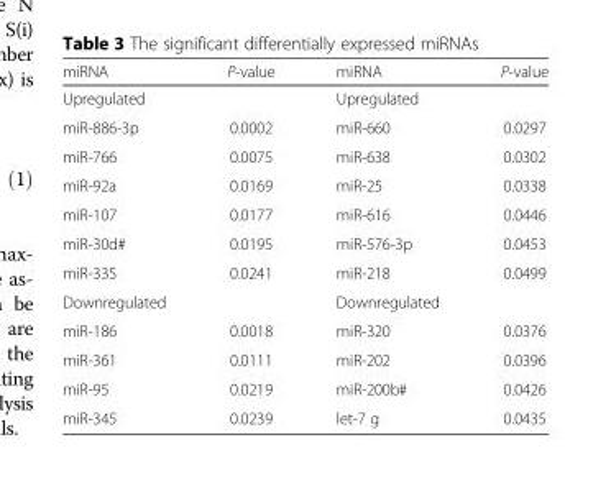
<table><thead><tr><td>miRNA</td><td>P-value</td><td>miRNA</td><td>P-value</td></tr></thead><tbody><tr><td>Upregulated</td><td></td><td>Upregulated</td><td></td></tr><tr><td>miR-886-3p</td><td>0.0002</td><td>miR-660</td><td>0.0297</td></tr><tr><td>miR-766</td><td>0.0075</td><td>miR-638</td><td>0.0302</td></tr><tr><td>miR-92a</td><td>0.0169</td><td>miR-25</td><td>0.0338</td></tr><tr><td>miR-107</td><td>0.0177</td><td>miR-616</td><td>0.0446</td></tr><tr><td>miR-30d#</td><td>0.0195</td><td>miR-576-3p</td><td>0.0453</td></tr><tr><td>miR-335</td><td>0.0241</td><td>miR-218</td><td>0.0499</td></tr><tr><td>Downregulated</td><td></td><td>Downregulated</td><td></td></tr><tr><td>miR-186</td><td>0.0018</td><td>miR-320</td><td>0.0376</td></tr><tr><td>miR-361</td><td>0.0111</td><td>miR-202</td><td>0.0396</td></tr><tr><td>miR-95</td><td>0.0219</td><td>miR-200b#</td><td>0.0426</td></tr><tr><td>miR-345</td><td>0.0239</td><td>let-7 g</td><td>0.0435</td></tr></tbody></table>